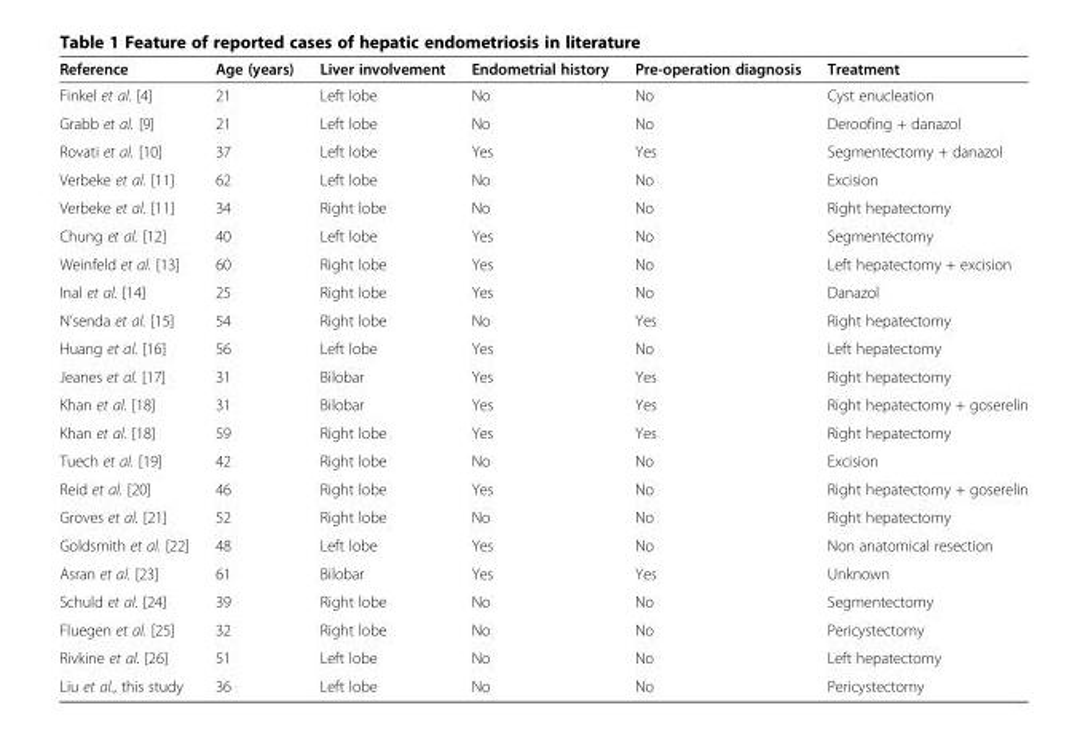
<table><thead><tr><td>Reference</td><td>Age (years)</td><td>Liver involvement</td><td>Endometrial history</td><td>Pre-operation diagnosis</td><td>Treatment</td></tr></thead><tbody><tr><td>Finkel et al. [4]</td><td>21</td><td>Left lobe</td><td>No</td><td>No</td><td>Cyst enucleation</td></tr><tr><td>Grabb et al. [9]</td><td>21</td><td>Left lobe</td><td>No</td><td>No</td><td>Deroofing + danazol</td></tr><tr><td>Rovati et al. [10]</td><td>37</td><td>Left lobe</td><td>Yes</td><td>Yes</td><td>Segmentectomy + danazol</td></tr><tr><td>Verbeke et al. [11]</td><td>62</td><td>Left lobe</td><td>No</td><td>No</td><td>Excision</td></tr><tr><td>Verbeke et al. [11]</td><td>34</td><td>Right lobe</td><td>No</td><td>No</td><td>Right hepatectomy</td></tr><tr><td>Chung et al. [12]</td><td>40</td><td>Left lobe</td><td>Yes</td><td>No</td><td>Segmentectomy</td></tr><tr><td>Weinfeld et al. [13]</td><td>60</td><td>Right lobe</td><td>Yes</td><td>No</td><td>Left hepatectomy + excision</td></tr><tr><td>Inal et al. [14]</td><td>25</td><td>Right lobe</td><td>Yes</td><td>No</td><td>Danazol</td></tr><tr><td>N’senda et al. [15]</td><td>54</td><td>Right lobe</td><td>No</td><td>Yes</td><td>Right hepatectomy</td></tr><tr><td>Huang et al. [16]</td><td>56</td><td>Left lobe</td><td>Yes</td><td>No</td><td>Left hepatectomy</td></tr><tr><td>Jeanes et al. [17]</td><td>31</td><td>Bilobar</td><td>Yes</td><td>Yes</td><td>Right hepatectomy</td></tr><tr><td>Khan et al. [18]</td><td>31</td><td>Bilobar</td><td>Yes</td><td>Yes</td><td>Right hepatectomy + goserelin</td></tr><tr><td>Khan et al. [18]</td><td>59</td><td>Right lobe</td><td>Yes</td><td>Yes</td><td>Right hepatectomy</td></tr><tr><td>Tuech et al. [19]</td><td>42</td><td>Right lobe</td><td>No</td><td>No</td><td>Excision</td></tr><tr><td>Reid et al. [20]</td><td>46</td><td>Right lobe</td><td>Yes</td><td>No</td><td>Right hepatectomy + goserelin</td></tr><tr><td>Groves et al. [21]</td><td>52</td><td>Right lobe</td><td>No</td><td>No</td><td>Right hepatectomy</td></tr><tr><td>Goldsmith et al. [22]</td><td>48</td><td>Left lobe</td><td>Yes</td><td>No</td><td>Non anatomical resection</td></tr><tr><td>Asran et al. [23]</td><td>61</td><td>Bilobar</td><td>Yes</td><td>Yes</td><td>Unknown</td></tr><tr><td>Schuld et al. [24]</td><td>39</td><td>Right lobe</td><td>No</td><td>No</td><td>Segmentectomy</td></tr><tr><td>Fluegen et al. [25]</td><td>32</td><td>Right lobe</td><td>No</td><td>No</td><td>Pericystectomy</td></tr><tr><td>Rivkine et al. [26]</td><td>51</td><td>Left lobe</td><td>No</td><td>No</td><td>Left hepatectomy</td></tr><tr><td>Liu et al., this study</td><td>36</td><td>Left lobe</td><td>No</td><td>No</td><td>Pericystectomy</td></tr></tbody></table>